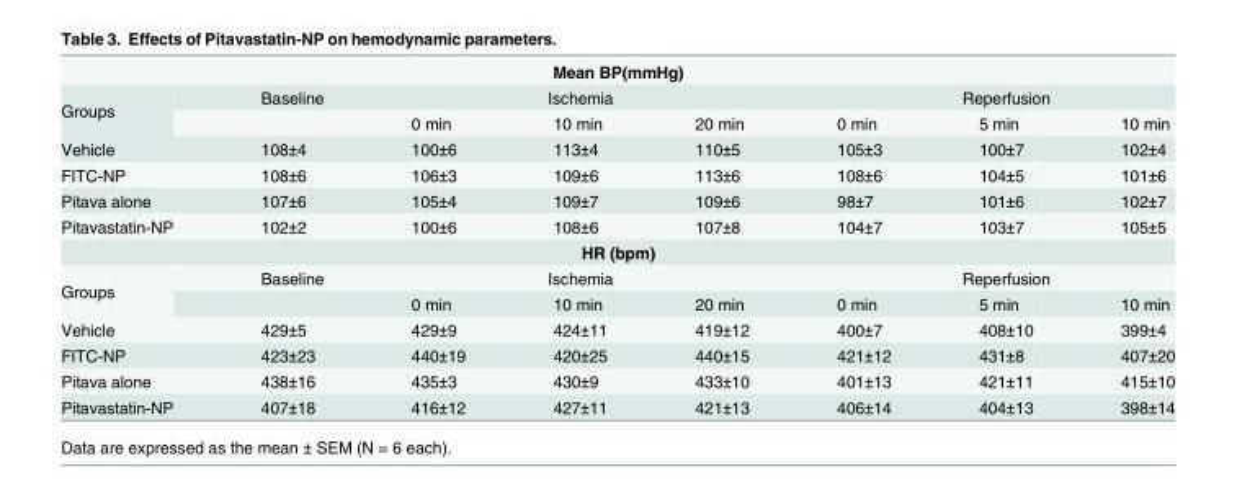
<table><tbody><tr><td colspan="8">Mean BP(mmHg)</td></tr><tr><td rowspan="2">Groups</td><td>Baseline</td><td colspan="3">Ischemia</td><td colspan="3">Reperfusion</td></tr><tr><td></td><td>0 min</td><td>10 min</td><td>20 min</td><td>0 min</td><td>5 min</td><td>10 min</td></tr><tr><td>Vehicle</td><td>108±4</td><td>100±6</td><td>113±4</td><td>110±5</td><td>105±3</td><td>100±7</td><td>102±4</td></tr><tr><td>FITC-NP</td><td>108±6</td><td>106±3</td><td>109±6</td><td>113±6</td><td>108±6</td><td>104±5</td><td>101±6</td></tr><tr><td>Pitava alone</td><td>107±6</td><td>105±4</td><td>109±7</td><td>109±6</td><td>98±7</td><td>101±6</td><td>102±7</td></tr><tr><td>Pitavastatin-NP</td><td>102±2</td><td>100±6</td><td>108±6</td><td>107±8</td><td>104±7</td><td>103±7</td><td>105±5</td></tr><tr><td colspan="8">HR (bpm)</td></tr><tr><td rowspan="2">Groups</td><td>Baseline</td><td colspan="3">Ischemia</td><td colspan="3">Reperfusion</td></tr><tr><td></td><td>0 min</td><td>10 min</td><td>20 min</td><td>0 min</td><td>5 min</td><td>10 min</td></tr><tr><td>Vehicle</td><td>429±5</td><td>429±9</td><td>424±11</td><td>419±12</td><td>400±7</td><td>408±10</td><td>399±4</td></tr><tr><td>FITC-NP</td><td>423±23</td><td>440±19</td><td>420±25</td><td>440±15</td><td>421±12</td><td>431±8</td><td>407±20</td></tr><tr><td>Pitava alone</td><td>438±16</td><td>435±3</td><td>430±9</td><td>433±10</td><td>401±13</td><td>421±11</td><td>415±10</td></tr><tr><td>Pitavastatin-NP</td><td>407±18</td><td>416±12</td><td>427±11</td><td>421±13</td><td>406±14</td><td>404±13</td><td>398±14</td></tr></tbody></table>